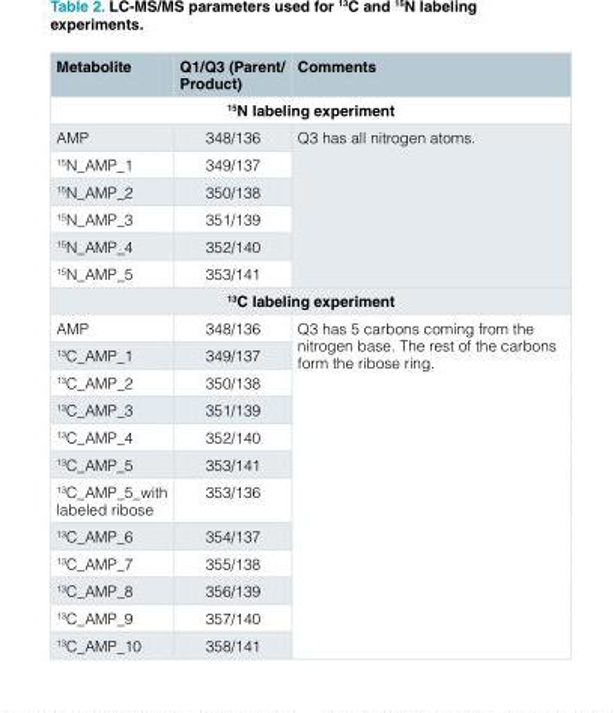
<table><thead><tr><td>Metabolite</td><td>Q1/Q3 (Parent/ Product)</td><td>Comments</td></tr></thead><tbody><tr><td colspan="3"><sup>15</sup>N labeling experiment</td></tr><tr><td>AMP</td><td>348/136</td><td rowspan="6">Q3 has all nitrogen atoms.</td></tr><tr><td><sup>15</sup>N_AMP_1</td><td>349/137</td></tr><tr><td><sup>15</sup>N_AMP_2</td><td>350/138</td></tr><tr><td><sup>15</sup>N_AMP_3</td><td>351/139</td></tr><tr><td><sup>15</sup>N_AMP_4</td><td>352/140</td></tr><tr><td><sup>15</sup>N_AMP_5</td><td>353/141</td></tr><tr><td colspan="3"><sup>13</sup>C labeling experiment</td></tr><tr><td>AMP</td><td>348/136</td><td rowspan="12">Q3 has 5 carbons coming from the nitrogen base. The rest of the carbons form the ribose ring.</td></tr><tr><td><sup>13</sup>C_AMP_1</td><td>349/137</td></tr><tr><td><sup>13</sup>C_AMP_2</td><td>350/138</td></tr><tr><td><sup>13</sup>C_AMP_3</td><td>351/139</td></tr><tr><td><sup>13</sup>C_AMP_4</td><td>352/140</td></tr><tr><td><sup>13</sup>C_AMP_5</td><td>353/141</td></tr><tr><td><sup>13</sup>C_AMP_5_with labeled ribose</td><td>353/136</td></tr><tr><td><sup>13</sup>C_AMP_6</td><td>354/137</td></tr><tr><td><sup>13</sup>C_AMP_7</td><td>355/138</td></tr><tr><td><sup>13</sup>C_AMP_8</td><td>356/139</td></tr><tr><td><sup>13</sup>C_AMP_9</td><td>357/140</td></tr><tr><td><sup>13</sup>C_AMP_10</td><td>358/141</td></tr></tbody></table>